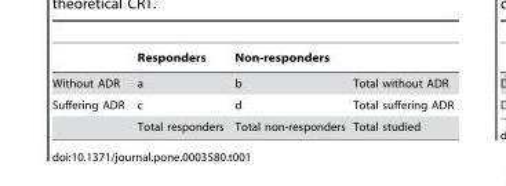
<table><thead><tr><td></td><td>Responders</td><td>Non-responders</td><td></td></tr></thead><tbody><tr><td>Without ADR</td><td>a</td><td>b</td><td>Total without ADR</td></tr><tr><td rowspan="2">Suffering ADR</td><td>c</td><td>d</td><td>Total suffering ADR</td></tr><tr><td>Total responders</td><td>Total non-responders</td><td>Total studied</td></tr></tbody></table>